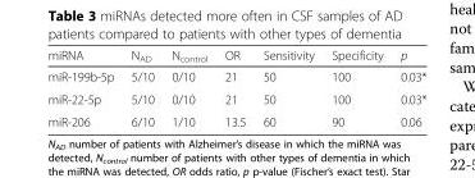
<table><thead><tr><td>miRNA</td><td>N<sub>AD</sub></td><td>N<sub>control</sub></td><td>OR</td><td>Sensitivity</td><td>Specificity</td><td>p</td></tr></thead><tbody><tr><td>miR-199b-5p</td><td>5/10</td><td>0/10</td><td>21</td><td>50</td><td>100</td><td>0.03*</td></tr><tr><td>miR-22-5p</td><td>5/10</td><td>0/10</td><td>21</td><td>50</td><td>100</td><td>0.03*</td></tr><tr><td>miR-206</td><td>6/10</td><td>1/10</td><td>13.5</td><td>60</td><td>90</td><td>0.06</td></tr></tbody></table>